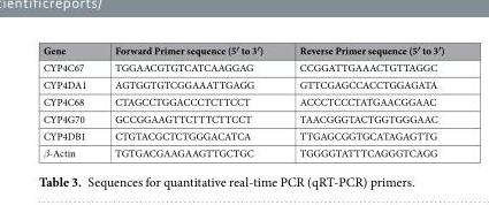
<table><thead><tr><td>Gene</td><td>Forward Primer sequence (5′ to 3′)</td><td>Reverse Primer sequence (5′ to 3′)</td></tr></thead><tbody><tr><td>CYP4C67</td><td>TGGAACGTGTCATCAAGGAG</td><td>CCGGATTGAAACTGTTAGGC</td></tr><tr><td>CYP4DA1</td><td>AGTGGTGTCGGAAATTGAGG</td><td>GTTCGAGCCACCTGGAGATA</td></tr><tr><td>CYP4C68</td><td>CTAGCCTGGACCCTCTTCCT</td><td>ACCCTCCCTATGAACGGAAC</td></tr><tr><td>CYP4G70</td><td>GCCGGAAGTTCTTTCTTCCT</td><td>TAACGGGTACTGGTGGGAAC</td></tr><tr><td>CYP4DB1</td><td>CTGTACGCTCTGGGACATCA</td><td>TTGAGCGGTGCATAGAGTTG</td></tr><tr><td>β-Actin</td><td>TGTGACGAAGAAGTTGCTGC</td><td>TGGGGTATTTCAGGGTCAGG</td></tr></tbody></table>